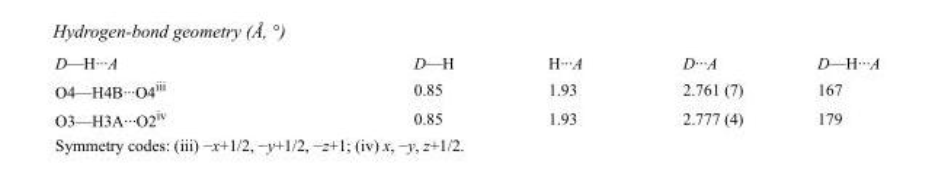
<table><tbody><tr><td>D—H···A</td><td>D—H</td><td>H···A</td><td>D···A</td><td>D—H···A</td></tr><tr><td>O4—H4B···O4<sup>iii</sup></td><td>0.85</td><td>1.93</td><td>2.761 (7)</td><td>167</td></tr><tr><td>O3—H3A···O2<sup>iv</sup></td><td>0.85</td><td>1.93</td><td>2.777 (4)</td><td>179</td></tr></tbody></table>